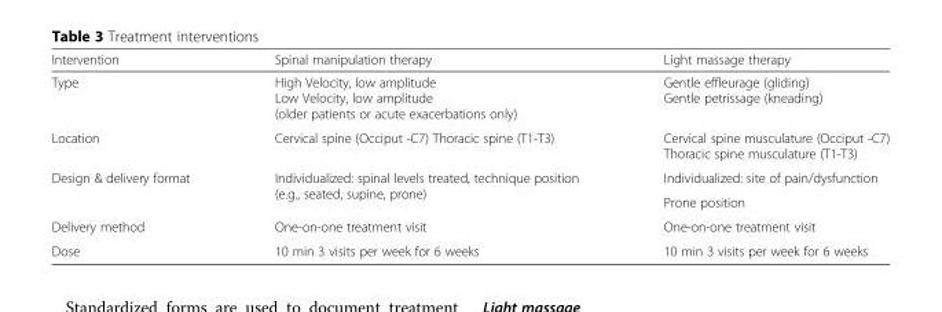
<table><thead><tr><td>Intervention</td><td>Spinal manipulation therapy</td><td>Light massage therapy</td></tr></thead><tbody><tr><td>Type</td><td>High Velocity, low amplitude Low Velocity, low amplitude (older patients or acute exacerbations only)</td><td>Gentle effleurage (gliding) Gentle petrissage (kneading)</td></tr><tr><td>Location</td><td>Cervical spine (Occiput -C7) Thoracic spine (T1-T3)</td><td>Cervical spine musculature (Occiput -C7) Thoracic spine musculature (T1-T3)</td></tr><tr><td rowspan="2">Design &amp; delivery format</td><td rowspan="2">Individualized: spinal levels treated, technique position (e.g., seated, supine, prone)</td><td>Individualized: site of pain/dysfunction</td></tr><tr><td>Prone position</td></tr><tr><td>Delivery method</td><td>One-on-one treatment visit</td><td>One-on-one treatment visit</td></tr><tr><td>Dose</td><td>10 min 3 visits per week for 6 weeks</td><td>10 min 3 visits per week for 6 weeks</td></tr></tbody></table>